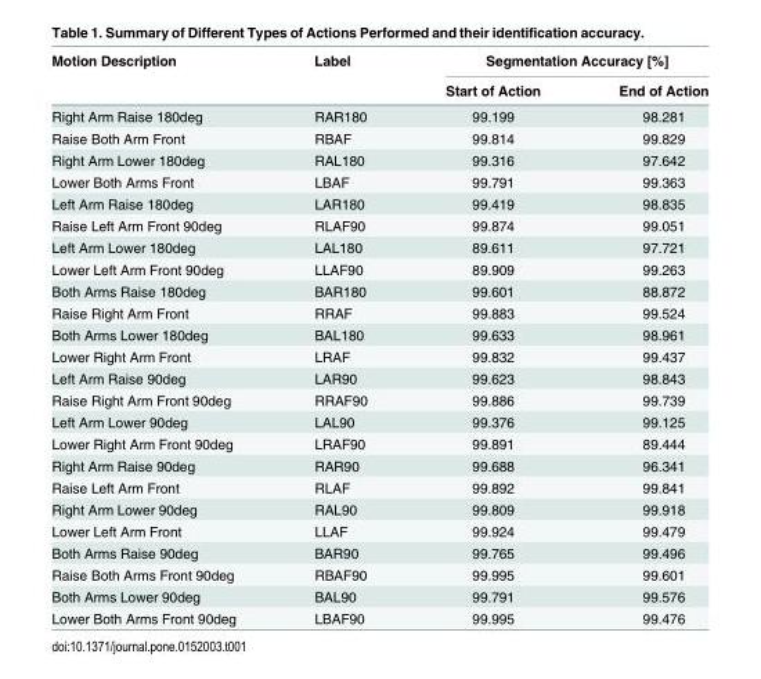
<table><thead><tr><td rowspan="2">Motion Description</td><td rowspan="2">Label</td><td colspan="2">Segmentation Accuracy [%]</td></tr><tr><td>Start of Action</td><td>End of Action</td></tr></thead><tbody><tr><td>Right Arm Raise 180deg</td><td>RAR180</td><td>99.199</td><td>98.281</td></tr><tr><td>Raise Both Arm Front</td><td>RBAF</td><td>99.814</td><td>99.829</td></tr><tr><td>Right Arm Lower 180deg</td><td>RAL180</td><td>99.316</td><td>97.642</td></tr><tr><td>Lower Both Arms Front</td><td>LBAF</td><td>99.791</td><td>99.363</td></tr><tr><td>Left Arm Raise 180deg</td><td>LAR180</td><td>99.419</td><td>98.835</td></tr><tr><td>Raise Left Arm Front 90deg</td><td>RLAF90</td><td>99.874</td><td>99.051</td></tr><tr><td>Left Arm Lower 180deg</td><td>LAL180</td><td>89.611</td><td>97.721</td></tr><tr><td>Lower Left Arm Front 90deg</td><td>LLAF90</td><td>89.909</td><td>99.263</td></tr><tr><td>Both Arms Raise 180deg</td><td>BAR180</td><td>99.601</td><td>88.872</td></tr><tr><td>Raise Right Arm Front</td><td>RRAF</td><td>99.883</td><td>99.524</td></tr><tr><td>Both Arms Lower 180deg</td><td>BAL180</td><td>99.633</td><td>98.961</td></tr><tr><td>Lower Right Arm Front</td><td>LRAF</td><td>99.832</td><td>99.437</td></tr><tr><td>Left Arm Raise 90deg</td><td>LAR90</td><td>99.623</td><td>98.843</td></tr><tr><td>Raise Right Arm Front 90deg</td><td>RRAF90</td><td>99.886</td><td>99.739</td></tr><tr><td>Left Arm Lower 90deg</td><td>LAL90</td><td>99.376</td><td>99.125</td></tr><tr><td>Lower Right Arm Front 90deg</td><td>LRAF90</td><td>99.891</td><td>89.444</td></tr><tr><td>Right Arm Raise 90deg</td><td>RAR90</td><td>99.688</td><td>96.341</td></tr><tr><td>Raise Left Arm Front</td><td>RLAF</td><td>99.892</td><td>99.841</td></tr><tr><td>Right Arm Lower 90deg</td><td>RAL90</td><td>99.809</td><td>99.918</td></tr><tr><td>Lower Left Arm Front</td><td>LLAF</td><td>99.924</td><td>99.479</td></tr><tr><td>Both Arms Raise 90deg</td><td>BAR90</td><td>99.765</td><td>99.496</td></tr><tr><td>Raise Both Arms Front 90deg</td><td>RBAF90</td><td>99.995</td><td>99.601</td></tr><tr><td>Both Arms Lower 90deg</td><td>BAL90</td><td>99.791</td><td>99.576</td></tr><tr><td>Lower Both Arms Front 90deg</td><td>LBAF90</td><td>99.995</td><td>99.476</td></tr></tbody></table>